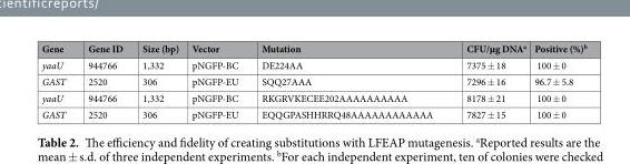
<table><thead><tr><td>Gene</td><td>Gene ID</td><td>Size (bp)</td><td>Vector</td><td>Mutation</td><td>CFU/µg DNA<sup>a</sup></td><td>Positive (%)<sup>b</sup></td></tr></thead><tbody><tr><td>yaaU</td><td>944766</td><td>1,332</td><td>pNGFP-BC</td><td>DE224AA</td><td>7375 ± 18</td><td>100 ± 0</td></tr><tr><td>GAST</td><td>2520</td><td>306</td><td>pNGFP-EU</td><td>SQQ27AAA</td><td>7296 ± 16</td><td>96.7 ± 5.8</td></tr><tr><td>yaaU</td><td>944766</td><td>1,332</td><td>pNGFP-BC</td><td>RKGRVKECEE202AAAAAAAAAA</td><td>8178 ± 21</td><td>100 ± 0</td></tr><tr><td>GAST</td><td>2520</td><td>306</td><td>pNGFP-EU</td><td>EQQGPASHHRRQ48AAAAAAAAAAAA</td><td>7827 ± 15</td><td>100 ± 0</td></tr></tbody></table>